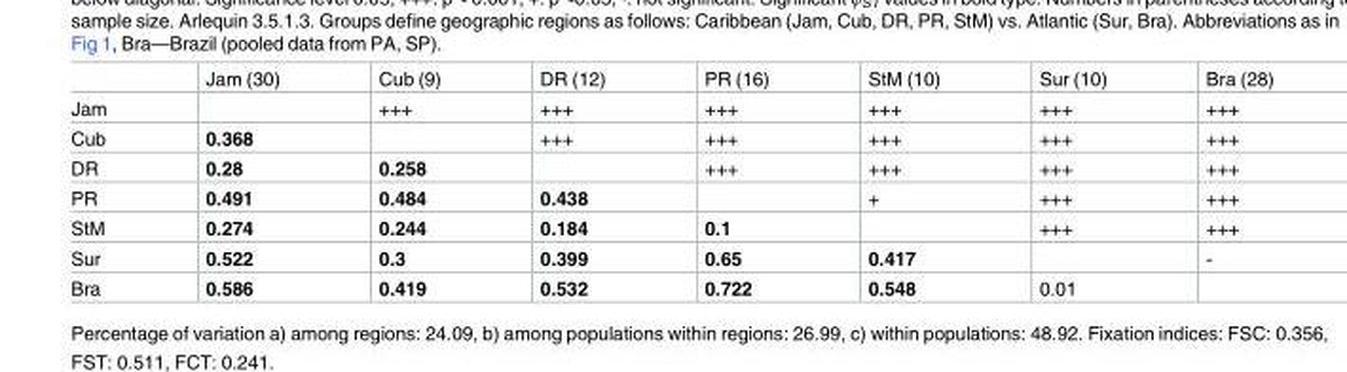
<table><thead><tr><td></td><td>Jam (30)</td><td>Cub (9)</td><td>DR (12)</td><td>PR (16)</td><td>StM (10)</td><td>Sur (10)</td><td>Bra (28)</td></tr></thead><tbody><tr><td>Jam</td><td></td><td>+++</td><td>+++</td><td>+++</td><td>+++</td><td>+++</td><td>+++</td></tr><tr><td>Cub</td><td>0.368</td><td></td><td>+++</td><td>+++</td><td>+++</td><td>+++</td><td>+++</td></tr><tr><td>DR</td><td>0.28</td><td>0.258</td><td></td><td>+++</td><td>+++</td><td>+++</td><td>+++</td></tr><tr><td>PR</td><td>0.491</td><td>0.484</td><td>0.438</td><td></td><td>+</td><td>+++</td><td>+++</td></tr><tr><td>StM</td><td>0.274</td><td>0.244</td><td>0.184</td><td>0.1</td><td></td><td>+++</td><td>+++</td></tr><tr><td>Sur</td><td>0.522</td><td>0.3</td><td>0.399</td><td>0.65</td><td>0.417</td><td></td><td>-</td></tr><tr><td>Bra</td><td>0.586</td><td>0.419</td><td>0.532</td><td>0.722</td><td>0.548</td><td>0.01</td><td></td></tr></tbody></table>